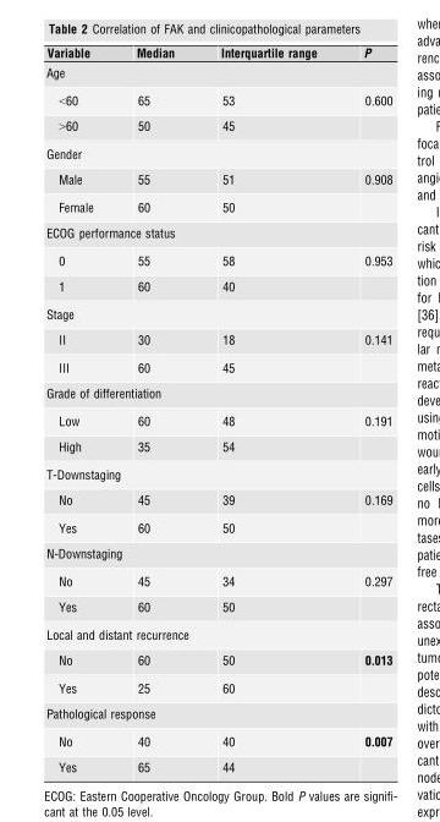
<table><thead><tr><td>Variable</td><td>Median</td><td>Interquartile range</td><td>P</td></tr></thead><tbody><tr><td colspan="4">Age</td></tr><tr><td>&lt;60</td><td>65</td><td>53</td><td>0.600</td></tr><tr><td>&gt;60</td><td>50</td><td>45</td><td></td></tr><tr><td colspan="4">Gender</td></tr><tr><td>Male</td><td>55</td><td>51</td><td>0.908</td></tr><tr><td>Female</td><td>60</td><td>50</td><td></td></tr><tr><td colspan="4">ECOG performance status</td></tr><tr><td>0</td><td>55</td><td>58</td><td>0.953</td></tr><tr><td>1</td><td>60</td><td>40</td><td></td></tr><tr><td colspan="4">Stage</td></tr><tr><td>II</td><td>30</td><td>18</td><td>0.141</td></tr><tr><td>III</td><td>60</td><td>45</td><td></td></tr><tr><td colspan="4">Grade of differentiation</td></tr><tr><td>Low</td><td>60</td><td>48</td><td>0.191</td></tr><tr><td>High</td><td>35</td><td>54</td><td></td></tr><tr><td colspan="4">T-Downstaging</td></tr><tr><td>No</td><td>45</td><td>39</td><td>0.169</td></tr><tr><td>Yes</td><td>60</td><td>50</td><td></td></tr><tr><td colspan="4">N-Downstaging</td></tr><tr><td>No</td><td>45</td><td>34</td><td>0.297</td></tr><tr><td>Yes</td><td>60</td><td>50</td><td></td></tr><tr><td colspan="4">Local and distant recurrence</td></tr><tr><td>No</td><td>60</td><td>50</td><td>0.013</td></tr><tr><td>Yes</td><td>25</td><td>60</td><td></td></tr><tr><td colspan="4">Pathological response</td></tr><tr><td>No</td><td>40</td><td>40</td><td>0.007</td></tr><tr><td>Yes</td><td>65</td><td>44</td><td></td></tr></tbody></table>